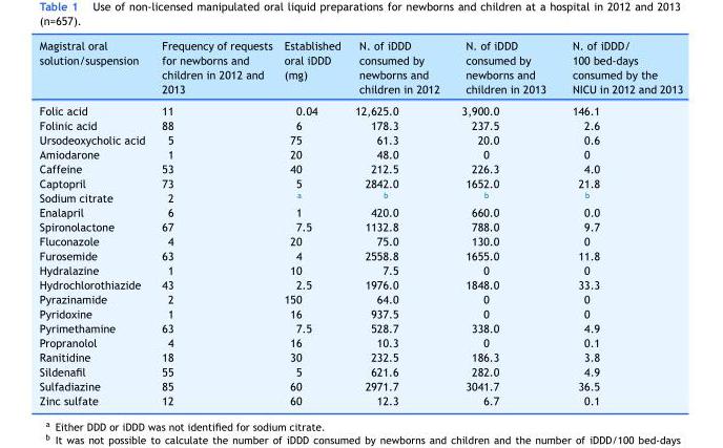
<table><thead><tr><td>Magistral oral solution/suspension</td><td>Frequency of requests for newborns and children in 2012 and 2013</td><td>Established oral iDDD (mg)</td><td>N. of iDDD consumed by newborns and children in 2012</td><td>N. of iDDD consumed by newborns and children in 2013</td><td>N. of iDDD/ 100 bed-days consumed by the NICU in 2012 and 2013</td></tr></thead><tbody><tr><td>Folic acid</td><td>11</td><td>0.04</td><td>12,625.0</td><td>3,900.0</td><td>146.1</td></tr><tr><td>Folinic acid</td><td>88</td><td>6</td><td>178.3</td><td>237.5</td><td>2.6</td></tr><tr><td>Ursodeoxycholic acid</td><td>5</td><td>75</td><td>61.3</td><td>20.0</td><td>0.6</td></tr><tr><td>Amiodarone</td><td>1</td><td>20</td><td>48.0</td><td>0</td><td>0</td></tr><tr><td>Caffeine</td><td>53</td><td>40</td><td>212.5</td><td>226.3</td><td>4.0</td></tr><tr><td>Captopril</td><td>73</td><td>5</td><td>2842.0</td><td>1652.0</td><td>21.8</td></tr><tr><td>Sodium citrate</td><td>2</td><td><sup>a</sup></td><td><sup>b</sup></td><td><sup>b</sup></td><td><sup>b</sup></td></tr><tr><td>Enalapril</td><td>6</td><td>1</td><td>420.0</td><td>660.0</td><td>0.0</td></tr><tr><td>Spironolactone</td><td>67</td><td>7.5</td><td>1132.8</td><td>788.0</td><td>9.7</td></tr><tr><td>Fluconazole</td><td>4</td><td>20</td><td>75.0</td><td>130.0</td><td>0</td></tr><tr><td>Furosemide</td><td>63</td><td>4</td><td>2558.8</td><td>1655.0</td><td>11.8</td></tr><tr><td>Hydralazine</td><td>1</td><td>10</td><td>7.5</td><td>0</td><td>0</td></tr><tr><td>Hydrochlorothiazide</td><td>43</td><td>2.5</td><td>1976.0</td><td>1848.0</td><td>33.3</td></tr><tr><td>Pyrazinamide</td><td>2</td><td>150</td><td>64.0</td><td>0</td><td>0</td></tr><tr><td>Pyridoxine</td><td>1</td><td>16</td><td>937.5</td><td>0</td><td>0</td></tr><tr><td>Pyrimethamine</td><td>63</td><td>7.5</td><td>528.7</td><td>338.0</td><td>4.9</td></tr><tr><td>Propranolol</td><td>4</td><td>16</td><td>10.3</td><td>0</td><td>0.1</td></tr><tr><td>Ranitidine</td><td>18</td><td>30</td><td>232.5</td><td>186.3</td><td>3.8</td></tr><tr><td>Sildenafil</td><td>55</td><td>5</td><td>621.6</td><td>282.0</td><td>4.9</td></tr><tr><td>Sulfadiazine</td><td>85</td><td>60</td><td>2971.7</td><td>3041.7</td><td>36.5</td></tr><tr><td>Zinc sulfate</td><td>12</td><td>60</td><td>12.3</td><td>6.7</td><td>0.1</td></tr></tbody></table>